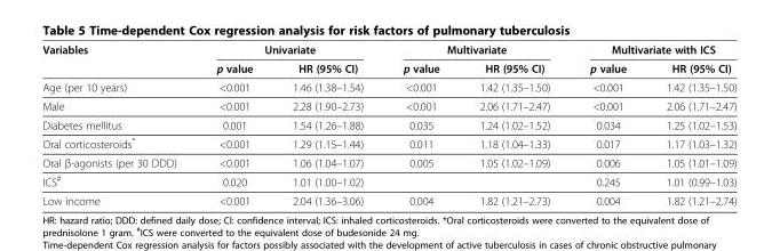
<table><thead><tr><td rowspan="2">Variables</td><td colspan="2">Univariate</td><td colspan="2">Multivariate</td><td colspan="2">Multivariate with ICS</td></tr><tr><td>p value</td><td>HR (95% CI)</td><td>p value</td><td>HR (95% CI)</td><td>p value</td><td>HR (95% CI)</td></tr></thead><tbody><tr><td>Age (per 10 years)</td><td>&lt;0.001</td><td>1.46 (1.38–1.54)</td><td>&lt;0.001</td><td>1.42 (1.35–1.50)</td><td>&lt;0.001</td><td>1.42 (1.35–1.50)</td></tr><tr><td>Male</td><td>&lt;0.001</td><td>2.28 (1.90–2.73)</td><td>&lt;0.001</td><td>2.06 (1.71–2.47)</td><td>&lt;0.001</td><td>2.06 (1.71–2.47)</td></tr><tr><td>Diabetes mellitus</td><td>0.001</td><td>1.54 (1.26–1.88)</td><td>0.035</td><td>1.24 (1.02–1.52)</td><td>0.034</td><td>1.25 (1.02–1.53)</td></tr><tr><td>Oral corticosteroids*</td><td>&lt;0.001</td><td>1.29 (1.15–1.44)</td><td>0.011</td><td>1.18 (1.04–1.33)</td><td>0.017</td><td>1.17 (1.03–1.32)</td></tr><tr><td>Oral β-agonists (per 30 DDD)</td><td>&lt;0.001</td><td>1.06 (1.04–1.07)</td><td>0.005</td><td>1.05 (1.02–1.09)</td><td>0.006</td><td>1.05 (1.01–1.09)</td></tr><tr><td>ICS<sup>#</sup></td><td>0.020</td><td>1.01 (1.00–1.02)</td><td></td><td></td><td>0.245</td><td>1.01 (0.99–1.03)</td></tr><tr><td>Low income</td><td>&lt;0.001</td><td>2.04 (1.36–3.06)</td><td>0.004</td><td>1.82 (1.21–2.73)</td><td>0.004</td><td>1.82 (1.21–2.74)</td></tr></tbody></table>